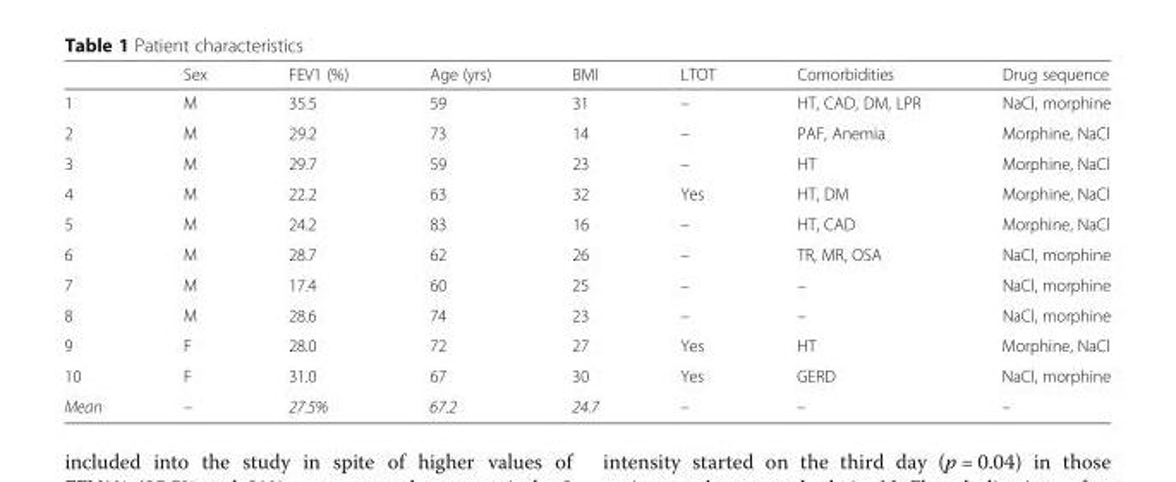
<table><thead><tr><td></td><td>Sex</td><td>FEV1 (%)</td><td>Age (yrs)</td><td>BMI</td><td>LTOT</td><td>Comorbidities</td><td>Drug sequence</td></tr></thead><tbody><tr><td>1</td><td>M</td><td>35.5</td><td>59</td><td>31</td><td>–</td><td>HT, CAD, DM, LPR</td><td>NaCl, morphine</td></tr><tr><td>2</td><td>M</td><td>29.2</td><td>73</td><td>14</td><td>–</td><td>PAF, Anemia</td><td>Morphine, NaCl</td></tr><tr><td>3</td><td>M</td><td>29.7</td><td>59</td><td>23</td><td>–</td><td>HT</td><td>Morphine, NaCl</td></tr><tr><td>4</td><td>M</td><td>22.2</td><td>63</td><td>32</td><td>Yes</td><td>HT, DM</td><td>Morphine, NaCl</td></tr><tr><td>5</td><td>M</td><td>24.2</td><td>83</td><td>16</td><td>–</td><td>HT, CAD</td><td>Morphine, NaCl</td></tr><tr><td>6</td><td>M</td><td>28.7</td><td>62</td><td>26</td><td>–</td><td>TR, MR, OSA</td><td>NaCl, morphine</td></tr><tr><td>7</td><td>M</td><td>17.4</td><td>60</td><td>25</td><td>–</td><td>–</td><td>NaCl, morphine</td></tr><tr><td>8</td><td>M</td><td>28.6</td><td>74</td><td>23</td><td>–</td><td>–</td><td>NaCl, morphine</td></tr><tr><td>9</td><td>F</td><td>28.0</td><td>72</td><td>27</td><td>Yes</td><td>HT</td><td>Morphine, NaCl</td></tr><tr><td>10</td><td>F</td><td>31.0</td><td>67</td><td>30</td><td>Yes</td><td>GERD</td><td>NaCl, morphine</td></tr><tr><td>Mean</td><td>–</td><td>27.5%</td><td>67.2</td><td>24.7</td><td>–</td><td>–</td><td>–</td></tr></tbody></table>